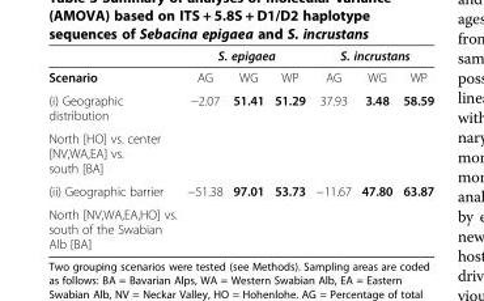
<table><thead><tr><td rowspan="2">Scenario</td><td colspan="3">S. epigaea</td><td colspan="3">S. incrustans</td></tr><tr><td>AG</td><td>WG</td><td>WP</td><td>AG</td><td>WG</td><td>WP</td></tr></thead><tbody><tr><td>(i) Geographic distribution</td><td>−2.07</td><td>51.41</td><td>51.29</td><td>37.93</td><td>3.48</td><td>58.59</td></tr><tr><td colspan="7">North [HO] vs. center [NV,WA,EA] vs. south [BA]</td></tr><tr><td>(ii) Geographic barrier</td><td>−51.38</td><td>97.01</td><td>53.73</td><td>−11.67</td><td>47.80</td><td>63.87</td></tr><tr><td>North [NV,WA,EA,HO] vs. south of the Swabian Alb [BA]</td><td></td><td></td><td></td><td></td><td></td><td></td></tr></tbody></table>